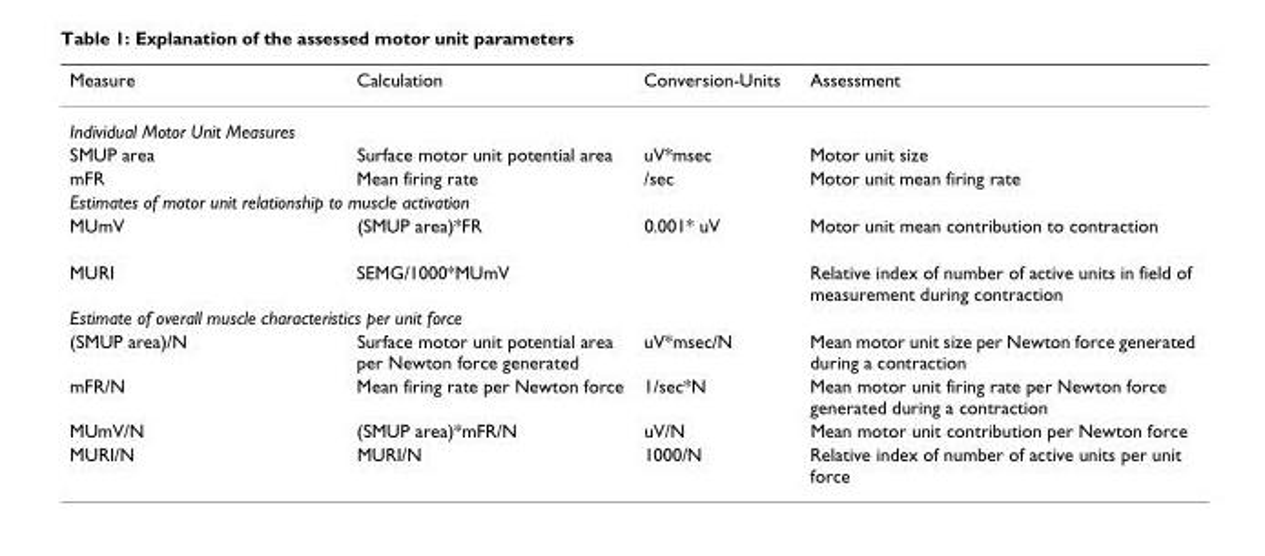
<table><thead><tr><td>Measure</td><td>Calculation</td><td>Conversion-Units</td><td>Assessment</td></tr></thead><tbody><tr><td colspan="4">Individual Motor Unit Measures</td></tr><tr><td>SMUP area</td><td>Surface motor unit potential area</td><td>uV*msec</td><td>Motor unit size</td></tr><tr><td>mFR</td><td>Mean firing rate</td><td>/sec</td><td>Motor unit mean firing rate</td></tr><tr><td colspan="4">Estimates of motor unit relationship to muscle activation</td></tr><tr><td>MUmV</td><td>(SMUP area)*FR</td><td>0.001* uV</td><td>Motor unit mean contribution to contraction</td></tr><tr><td>MURI</td><td>SEMG/1000*MUmV</td><td></td><td>Relative index of number of active units in field of measurement during contraction</td></tr><tr><td colspan="4">Estimate of overall muscle characteristics per unit force</td></tr><tr><td>(SMUP area)/N</td><td>Surface motor unit potential area per Newton force generated</td><td>uV*msec/N</td><td>Mean motor unit size per Newton force generated during a contraction</td></tr><tr><td>mFR/N</td><td>Mean firing rate per Newton force</td><td>1/sec*N</td><td>Mean motor unit firing rate per Newton force generated during a contraction</td></tr><tr><td>MUmV/N</td><td>(SMUP area)*mFR/N</td><td>uV/N</td><td>Mean motor unit contribution per Newton force</td></tr><tr><td>MURI/N</td><td>MURI/N</td><td>1000/N</td><td>Relative index of number of active units per unit force</td></tr></tbody></table>